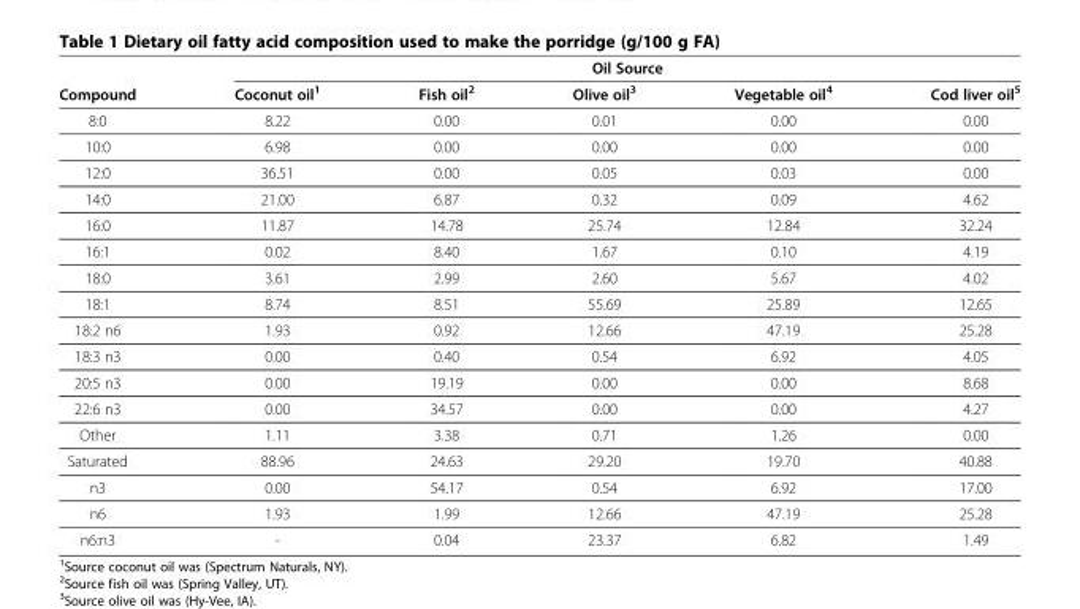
<table><thead><tr><td rowspan="2">Compound</td><td colspan="5">Oil Source</td></tr><tr><td>Coconut oil<sup>1</sup></td><td>Fish oil<sup>2</sup></td><td>Olive oil<sup>3</sup></td><td>Vegetable oil<sup>4</sup></td><td>Cod liver oil<sup>5</sup></td></tr></thead><tbody><tr><td>8:0</td><td>8.22</td><td>0.00</td><td>0.01</td><td>0.00</td><td>0.00</td></tr><tr><td>10:0</td><td>6.98</td><td>0.00</td><td>0.00</td><td>0.00</td><td>0.00</td></tr><tr><td>12:0</td><td>36.51</td><td>0.00</td><td>0.05</td><td>0.03</td><td>0.00</td></tr><tr><td>14:0</td><td>21.00</td><td>6.87</td><td>0.32</td><td>0.09</td><td>4.62</td></tr><tr><td>16:0</td><td>11.87</td><td>14.78</td><td>25.74</td><td>12.84</td><td>32.24</td></tr><tr><td>16:1</td><td>0.02</td><td>8.40</td><td>1.67</td><td>0.10</td><td>4.19</td></tr><tr><td>18:0</td><td>3.61</td><td>2.99</td><td>2.60</td><td>5.67</td><td>4.02</td></tr><tr><td>18:1</td><td>8.74</td><td>8.51</td><td>55.69</td><td>25.89</td><td>12.65</td></tr><tr><td>18:2 n6</td><td>1.93</td><td>0.92</td><td>12.66</td><td>47.19</td><td>25.28</td></tr><tr><td>18:3 n3</td><td>0.00</td><td>0.40</td><td>0.54</td><td>6.92</td><td>4.05</td></tr><tr><td>20:5 n3</td><td>0.00</td><td>19.19</td><td>0.00</td><td>0.00</td><td>8.68</td></tr><tr><td>22:6 n3</td><td>0.00</td><td>34.57</td><td>0.00</td><td>0.00</td><td>4.27</td></tr><tr><td>Other</td><td>1.11</td><td>3.38</td><td>0.71</td><td>1.26</td><td>0.00</td></tr><tr><td>Saturated</td><td>88.96</td><td>24.63</td><td>29.20</td><td>19.70</td><td>40.88</td></tr><tr><td>n3</td><td>0.00</td><td>54.17</td><td>0.54</td><td>6.92</td><td>17.00</td></tr><tr><td>n6</td><td>1.93</td><td>1.99</td><td>12.66</td><td>47.19</td><td>25.28</td></tr><tr><td>n6:n3</td><td>-</td><td>0.04</td><td>23.37</td><td>6.82</td><td>1.49</td></tr></tbody></table>